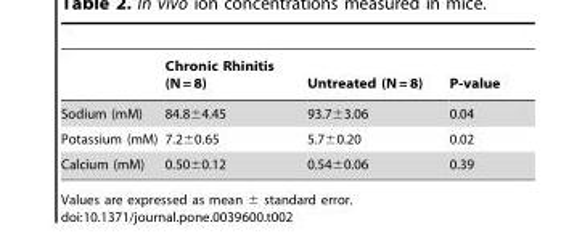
<table><thead><tr><td></td><td>Chronic Rhinitis (N = 8)</td><td>Untreated (N = 8)</td><td>P-value</td></tr></thead><tbody><tr><td>Sodium (mM)</td><td>84.8±4.45</td><td>93.7±3.06</td><td>0.04</td></tr><tr><td>Potassium (mM)</td><td>7.2±0.65</td><td>5.7±0.20</td><td>0.02</td></tr><tr><td>Calcium (mM)</td><td>0.50±0.12</td><td>0.54±0.06</td><td>0.39</td></tr></tbody></table>